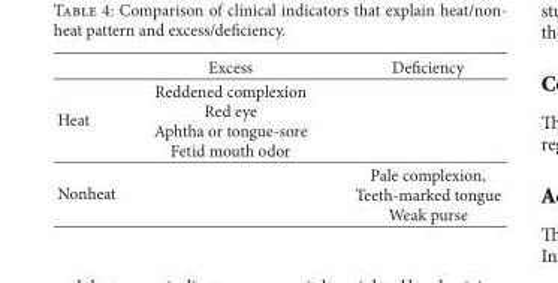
<table><thead><tr><td></td><td>Excess</td><td>Deficiency</td></tr></thead><tbody><tr><td>Heat</td><td>Reddened complexion Red eye Aphtha or tongue-sore Fetid mouth odor</td><td></td></tr><tr><td>Nonheat</td><td></td><td>Pale complexion, Teeth-marked tongue Weak purse</td></tr></tbody></table>